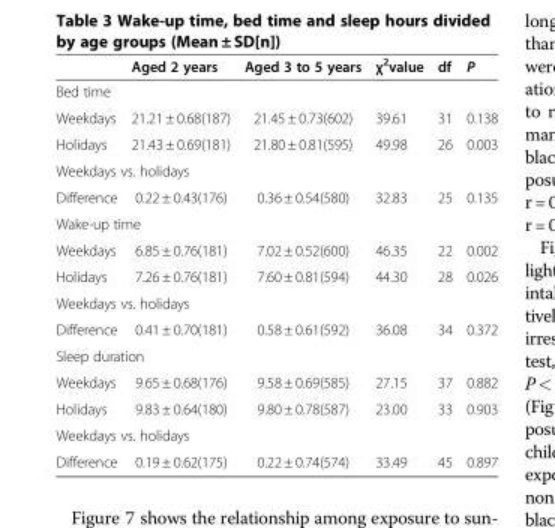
<table><thead><tr><td></td><td>Aged 2 years</td><td>Aged 3 to 5 years</td><td>χ<sup>2</sup>value</td><td>df</td><td>P</td></tr></thead><tbody><tr><td colspan="6">Bed time</td></tr><tr><td>Weekdays</td><td>21.21 ± 0.68(187)</td><td>21.45 ± 0.73(602)</td><td>39.61</td><td>31</td><td>0.138</td></tr><tr><td>Holidays</td><td>21.43 ± 0.69(181)</td><td>21.80 ± 0.81(595)</td><td>49.98</td><td>26</td><td>0.003</td></tr><tr><td colspan="6">Weekdays vs. holidays</td></tr><tr><td>Difference</td><td>0.22 ± 0.43(176)</td><td>0.36 ± 0.54(580)</td><td>32.83</td><td>25</td><td>0.135</td></tr><tr><td colspan="6">Wake-up time</td></tr><tr><td>Weekdays</td><td>6.85 ± 0.76(181)</td><td>7.02 ± 0.52(600)</td><td>46.35</td><td>22</td><td>0.002</td></tr><tr><td>Holidays</td><td>7.26 ± 0.76(181)</td><td>7.60 ± 0.81(594)</td><td>44.30</td><td>28</td><td>0.026</td></tr><tr><td colspan="6">Weekdays vs. holidays</td></tr><tr><td>Difference</td><td>0.41 ± 0.70(181)</td><td>0.58 ± 0.61(592)</td><td>36.08</td><td>34</td><td>0.372</td></tr><tr><td colspan="6">Sleep duration</td></tr><tr><td>Weekdays</td><td>9.65 ± 0.68(176)</td><td>9.58 ± 0.69(585)</td><td>27.15</td><td>37</td><td>0.882</td></tr><tr><td>Holidays</td><td>9.83 ± 0.64(180)</td><td>9.80 ± 0.78(587)</td><td>23.00</td><td>33</td><td>0.903</td></tr><tr><td colspan="6">Weekdays vs. holidays</td></tr><tr><td>Difference</td><td>0.19 ± 0.62(175)</td><td>0.22 ± 0.74(574)</td><td>33.49</td><td>45</td><td>0.897</td></tr></tbody></table>